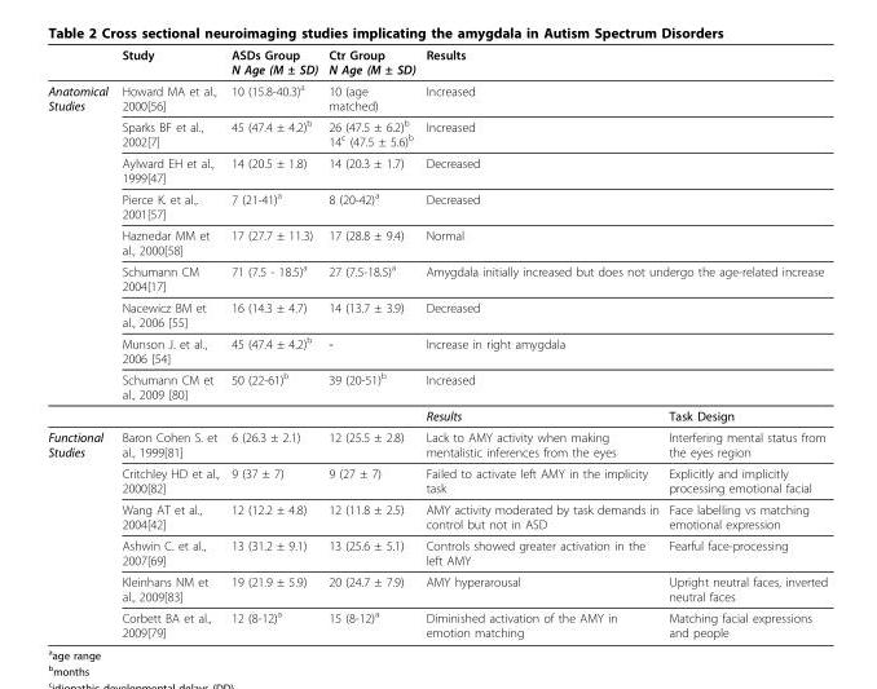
<table><thead><tr><td></td><td>Study</td><td>ASDs Group N Age (M ± SD)</td><td>Ctr Group N Age (M ± SD)</td><td>Results</td><td></td></tr></thead><tbody><tr><td rowspan="10">Anatomical Studies</td><td>Howard MA et al., 2000[56]</td><td>10 (15.8-40.3)<sup>a</sup></td><td>10 (age matched)</td><td>Increased</td><td></td></tr><tr><td>Sparks BF et al., 2002[7]</td><td>45 (47.4 ± 4.2)<sup>b</sup></td><td>26 (47.5 ± 6.2)<sup>b</sup> 14<sup>c</sup> (47.5 ± 5.6)<sup>b</sup></td><td>Increased</td><td></td></tr><tr><td>Aylward EH et al., 1999[47]</td><td>14 (20.5 ± 1.8)</td><td>14 (20.3 ± 1.7)</td><td>Decreased</td><td></td></tr><tr><td>Pierce K. et al., 2001[57]</td><td>7 (21-41)<sup>a</sup></td><td>8 (20-42)<sup>a</sup></td><td>Decreased</td><td></td></tr><tr><td>Haznedar MM et al., 2000[58]</td><td>17 (27.7 ± 11.3)</td><td>17 (28.8 ± 9.4)</td><td>Normal</td><td></td></tr><tr><td>Schumann CM 2004[17]</td><td>71 (7.5 - 18.5)<sup>a</sup></td><td>27 (7.5-18.5)<sup>a</sup></td><td colspan="2">Amygdala initially increased but does not undergo the age-related increase</td></tr><tr><td>Nacewicz BM et al., 2006 [55]</td><td>16 (14.3 ± 4.7)</td><td>14 (13.7 ± 3.9)</td><td>Decreased</td><td></td></tr><tr><td>Munson J. et al., 2006 [54]</td><td>45 (47.4 ± 4.2)<sup>b</sup></td><td>-</td><td>Increase in right amygdala</td><td></td></tr><tr><td>Schumann CM et al., 2009 [80]</td><td>50 (22-61)<sup>b</sup></td><td>39 (20-51)<sup>b</sup></td><td>Increased</td><td></td></tr><tr><td></td><td></td><td></td><td>Results</td><td>Task Design</td></tr><tr><td rowspan="6">Functional Studies</td><td>Baron Cohen S. et al., 1999[81]</td><td>6 (26.3 ± 2.1)</td><td>12 (25.5 ± 2.8)</td><td>Lack to AMY activity when making mentalistic inferences from the eyes</td><td>Interfering mental status from the eyes region</td></tr><tr><td>Critchley HD et al., 2000[82]</td><td>9 (37 ± 7)</td><td>9 (27 ± 7)</td><td>Failed to activate left AMY in the implicity task</td><td>Explicitly and implicitly processing emotional facial</td></tr><tr><td>Wang AT et al., 2004[42]</td><td>12 (12.2 ± 4.8)</td><td>12 (11.8 ± 2.5)</td><td>AMY activity moderated by task demands in control but not in ASD</td><td>Face labelling vs matching emotional expression</td></tr><tr><td>Ashwin C. et al., 2007[69]</td><td>13 (31.2 ± 9.1)</td><td>13 (25.6 ± 5.1)</td><td>Controls showed greater activation in the left AMY</td><td>Fearful face-processing</td></tr><tr><td>Kleinhans NM et al., 2009[83]</td><td>19 (21.9 ± 5.9)</td><td>20 (24.7 ± 7.9)</td><td>AMY hyperarousal</td><td>Upright neutral faces, inverted neutral faces</td></tr><tr><td>Corbett BA et al., 2009[79]</td><td>12 (8-12)<sup>a</sup></td><td>15 (8-12)<sup>a</sup></td><td>Diminished activation of the AMY in emotion matching</td><td>Matching facial expressions and people</td></tr></tbody></table>